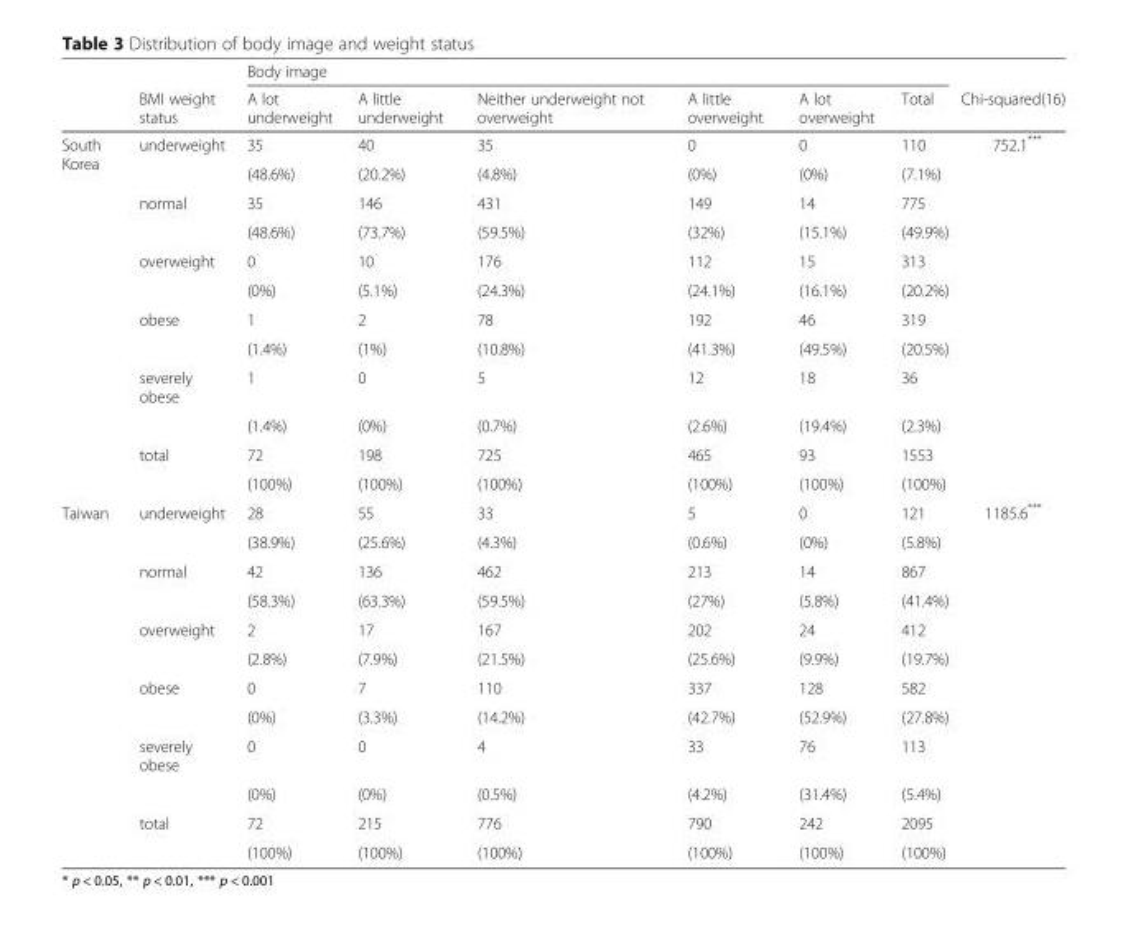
<table><thead><tr><td rowspan="2"></td><td rowspan="2">BMI weight status</td><td colspan="6">Body image</td><td rowspan="2">Chi-squared(16)</td></tr><tr><td>A lot underweight</td><td>A little underweight</td><td>Neither underweight not overweight</td><td>A little overweight</td><td>A lot overweight</td><td>Total</td></tr></thead><tbody><tr><td rowspan="12">South Korea</td><td>underweight</td><td>35</td><td>40</td><td>35</td><td>0</td><td>0</td><td>110</td><td rowspan="12">752.1***</td></tr><tr><td></td><td>(48.6%)</td><td>(20.2%)</td><td>(4.8%)</td><td>(0%)</td><td>(0%)</td><td>(7.1%)</td></tr><tr><td>normal</td><td>35</td><td>146</td><td>431</td><td>149</td><td>14</td><td>775</td></tr><tr><td></td><td>(48.6%)</td><td>(73.7%)</td><td>(59.5%)</td><td>(32%)</td><td>(15.1%)</td><td>(49.9%)</td></tr><tr><td>overweight</td><td>0</td><td>10</td><td>176</td><td>112</td><td>15</td><td>313</td></tr><tr><td></td><td>(0%)</td><td>(5.1%)</td><td>(24.3%)</td><td>(24.1%)</td><td>(16.1%)</td><td>(20.2%)</td></tr><tr><td>obese</td><td>1</td><td>2</td><td>78</td><td>192</td><td>46</td><td>319</td></tr><tr><td></td><td>(1.4%)</td><td>(1%)</td><td>(10.8%)</td><td>(41.3%)</td><td>(49.5%)</td><td>(20.5%)</td></tr><tr><td>severely obese</td><td>1</td><td>0</td><td>5</td><td>12</td><td>18</td><td>36</td></tr><tr><td></td><td>(1.4%)</td><td>(0%)</td><td>(0.7%)</td><td>(2.6%)</td><td>(19.4%)</td><td>(2.3%)</td></tr><tr><td>total</td><td>72</td><td>198</td><td>725</td><td>465</td><td>93</td><td>1553</td></tr><tr><td></td><td>(100%)</td><td>(100%)</td><td>(100%)</td><td>(100%)</td><td>(100%)</td><td>(100%)</td></tr><tr><td rowspan="12">Taiwan</td><td>underweight</td><td>28</td><td>55</td><td>33</td><td>5</td><td>0</td><td>121</td><td rowspan="12">1185.6***</td></tr><tr><td></td><td>(38.9%)</td><td>(25.6%)</td><td>(4.3%)</td><td>(0.6%)</td><td>(0%)</td><td>(5.8%)</td></tr><tr><td>normal</td><td>42</td><td>136</td><td>462</td><td>213</td><td>14</td><td>867</td></tr><tr><td></td><td>(58.3%)</td><td>(63.3%)</td><td>(59.5%)</td><td>(27%)</td><td>(5.8%)</td><td>(41.4%)</td></tr><tr><td>overweight</td><td>2</td><td>17</td><td>167</td><td>202</td><td>24</td><td>412</td></tr><tr><td></td><td>(2.8%)</td><td>(7.9%)</td><td>(21.5%)</td><td>(25.6%)</td><td>(9.9%)</td><td>(19.7%)</td></tr><tr><td>obese</td><td>0</td><td>7</td><td>110</td><td>337</td><td>128</td><td>582</td></tr><tr><td></td><td>(0%)</td><td>(3.3%)</td><td>(14.2%)</td><td>(42.7%)</td><td>(52.9%)</td><td>(27.8%)</td></tr><tr><td>severely obese</td><td>0</td><td>0</td><td>4</td><td>33</td><td>76</td><td>113</td></tr><tr><td></td><td>(0%)</td><td>(0%)</td><td>(0.5%)</td><td>(4.2%)</td><td>(31.4%)</td><td>(5.4%)</td></tr><tr><td>total</td><td>72</td><td>215</td><td>776</td><td>790</td><td>242</td><td>2095</td></tr><tr><td></td><td>(100%)</td><td>(100%)</td><td>(100%)</td><td>(100%)</td><td>(100%)</td><td>(100%)</td></tr></tbody></table>